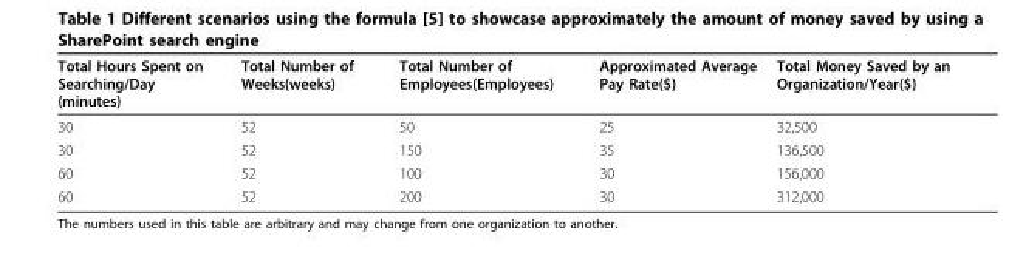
<table><thead><tr><td>Total Hours Spent on Searching/Day (minutes)</td><td>Total Number of Weeks(weeks)</td><td>Total Number of Employees(Employees)</td><td>Approximated Average Pay Rate($)</td><td>Total Money Saved by an Organization/Year($)</td></tr></thead><tbody><tr><td>30</td><td>52</td><td>50</td><td>25</td><td>32,500</td></tr><tr><td>30</td><td>52</td><td>150</td><td>35</td><td>136,500</td></tr><tr><td>60</td><td>52</td><td>100</td><td>30</td><td>156,000</td></tr><tr><td>60</td><td>52</td><td>200</td><td>30</td><td>312,000</td></tr></tbody></table>